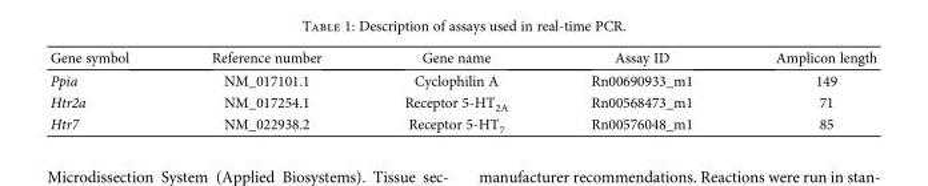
<table><thead><tr><td>Gene symbol</td><td>Reference number</td><td>Gene name</td><td>Assay ID</td><td>Amplicon length</td></tr></thead><tbody><tr><td>Ppia</td><td>NM_017101.1</td><td>Cyclophilin A</td><td>Rn00690933_m1</td><td>149</td></tr><tr><td>Htr2a</td><td>NM_017254.1</td><td>Receptor 5-HT<sub>2A</sub></td><td>Rn00568473_m1</td><td>71</td></tr><tr><td>Htr7</td><td>NM_022938.2</td><td>Receptor 5-HT<sub>7</sub></td><td>Rn00576048_m1</td><td>85</td></tr></tbody></table>